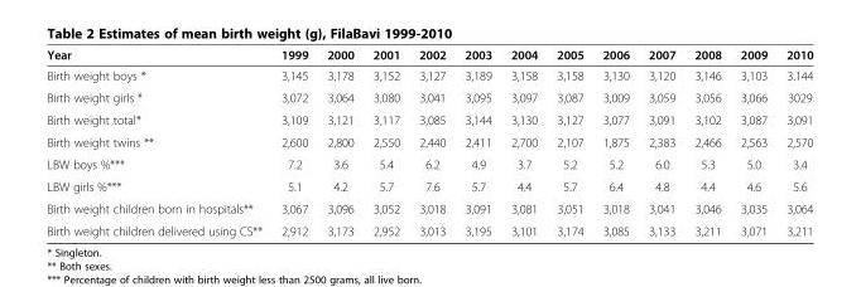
<table><thead><tr><td>Year</td><td>1999</td><td>2000</td><td>2001</td><td>2002</td><td>2003</td><td>2004</td><td>2005</td><td>2006</td><td>2007</td><td>2008</td><td>2009</td><td>2010</td></tr></thead><tbody><tr><td>Birth weight boys *</td><td>3,145</td><td>3,178</td><td>3,152</td><td>3,127</td><td>3,189</td><td>3,158</td><td>3,158</td><td>3,130</td><td>3,120</td><td>3,146</td><td>3,103</td><td>3.144</td></tr><tr><td>Birth weight girls *</td><td>3,072</td><td>3,064</td><td>3,080</td><td>3,041</td><td>3,095</td><td>3,097</td><td>3,087</td><td>3,009</td><td>3,059</td><td>3,056</td><td>3,066</td><td>3029</td></tr><tr><td>Birth weight total*</td><td>3,109</td><td>3,121</td><td>3,117</td><td>3,085</td><td>3,144</td><td>3,130</td><td>3,127</td><td>3,077</td><td>3,091</td><td>3,102</td><td>3,087</td><td>3,091</td></tr><tr><td>Birth weight twins **</td><td>2,600</td><td>2,800</td><td>2,550</td><td>2,440</td><td>2,411</td><td>2,700</td><td>2,107</td><td>1,875</td><td>2,383</td><td>2,466</td><td>2,563</td><td>2,570</td></tr><tr><td>LBW boys %***</td><td>7.2</td><td>3.6</td><td>5.4</td><td>6.2</td><td>4.9</td><td>3.7</td><td>5.2</td><td>5.2</td><td>6.0</td><td>5.3</td><td>5.0</td><td>3.4</td></tr><tr><td>LBW girls %***</td><td>5.1</td><td>4.2</td><td>5.7</td><td>7.6</td><td>5.7</td><td>4.4</td><td>5.7</td><td>6.4</td><td>4.8</td><td>4.4</td><td>4.6</td><td>5.6</td></tr><tr><td>Birth weight children born in hospitals**</td><td>3,067</td><td>3,096</td><td>3,052</td><td>3,018</td><td>3,091</td><td>3,081</td><td>3,051</td><td>3,018</td><td>3,041</td><td>3,046</td><td>3,035</td><td>3,064</td></tr><tr><td>Birth weight children delivered using CS**</td><td>2,912</td><td>3,173</td><td>2,952</td><td>3,013</td><td>3,195</td><td>3,101</td><td>3,174</td><td>3,085</td><td>3,133</td><td>3,211</td><td>3,071</td><td>3,211</td></tr></tbody></table>